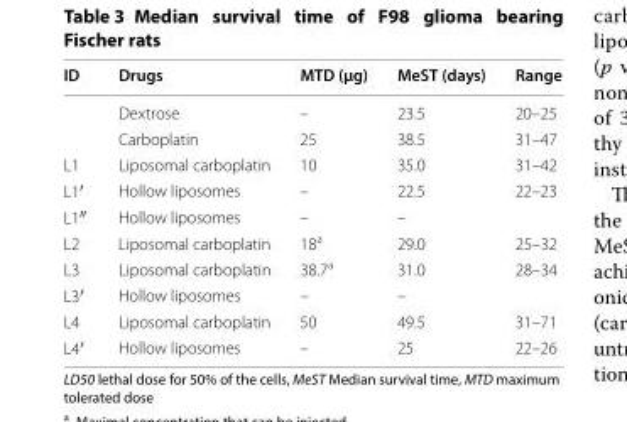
<table><thead><tr><td>ID</td><td>Drugs</td><td>MTD (µg)</td><td>MeST (days)</td><td>Range</td></tr></thead><tbody><tr><td></td><td>Dextrose</td><td>–</td><td>23.5</td><td>20–25</td></tr><tr><td></td><td>Carboplatin</td><td>25</td><td>38.5</td><td>31–47</td></tr><tr><td>L1</td><td>Liposomal carboplatin</td><td>10</td><td>35.0</td><td>31–42</td></tr><tr><td>L1′</td><td>Hollow liposomes</td><td>–</td><td>22.5</td><td>22–23</td></tr><tr><td>L1″</td><td>Hollow liposomes</td><td>–</td><td>–</td><td></td></tr><tr><td>L2</td><td>Liposomal carboplatin</td><td>18<sup>a</sup></td><td>29.0</td><td>25–32</td></tr><tr><td>L3</td><td>Liposomal carboplatin</td><td>38.7<sup>a</sup></td><td>31.0</td><td>28–34</td></tr><tr><td>L3′</td><td>Hollow liposomes</td><td>–</td><td>–</td><td></td></tr><tr><td>L4</td><td>Liposomal carboplatin</td><td>50</td><td>49.5</td><td>31–71</td></tr><tr><td>L4′</td><td>Hollow liposomes</td><td>–</td><td>25</td><td>22–26</td></tr></tbody></table>